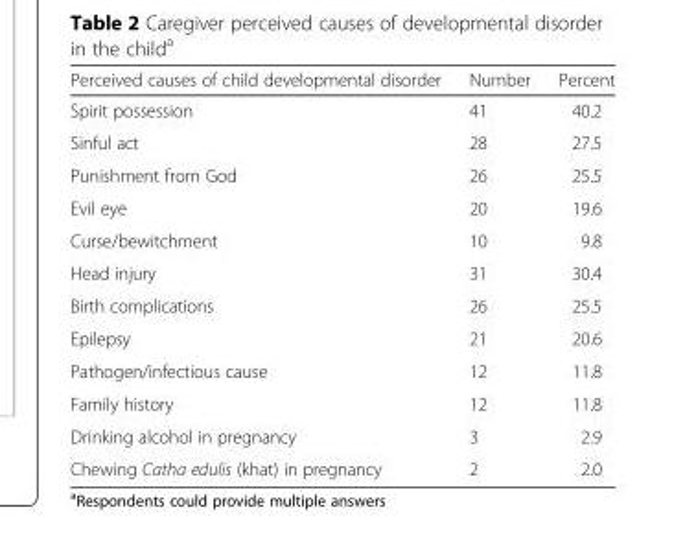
<table><thead><tr><td>Perceived causes of child developmental disorder</td><td>Number</td><td>Percent</td></tr></thead><tbody><tr><td>Spirit possession</td><td>41</td><td>40.2</td></tr><tr><td>Sinful act</td><td>28</td><td>27.5</td></tr><tr><td>Punishment from God</td><td>26</td><td>25.5</td></tr><tr><td>Evil eye</td><td>20</td><td>19.6</td></tr><tr><td>Curse/bewitchment</td><td>10</td><td>9.8</td></tr><tr><td>Head injury</td><td>31</td><td>30.4</td></tr><tr><td>Birth complications</td><td>26</td><td>25.5</td></tr><tr><td>Epilepsy</td><td>21</td><td>20.6</td></tr><tr><td>Pathogen/infectious cause</td><td>12</td><td>11.8</td></tr><tr><td>Family history</td><td>12</td><td>11.8</td></tr><tr><td>Drinking alcohol in pregnancy</td><td>3</td><td>2.9</td></tr><tr><td>Chewing Catha edulis (khat) in pregnancy</td><td>2</td><td>2.0</td></tr></tbody></table>